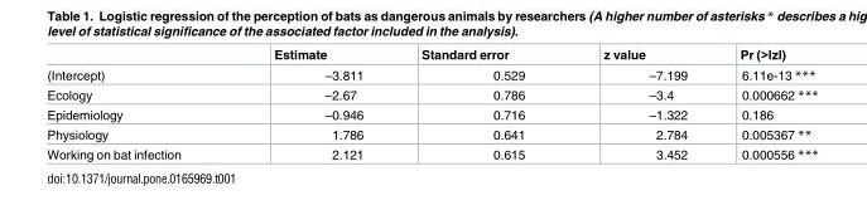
<table><thead><tr><td></td><td>Estimate</td><td>Standard error</td><td>z value</td><td>Pr (&gt;lzl)</td></tr></thead><tbody><tr><td>(Intercept)</td><td>–3.811</td><td>0.529</td><td>–7.199</td><td>6.11e-13 ***</td></tr><tr><td>Ecology</td><td>–2.67</td><td>0.786</td><td>–3.4</td><td>0.000662 ***</td></tr><tr><td>Epidemiology</td><td>–0.946</td><td>0.716</td><td>–1.322</td><td>0.186</td></tr><tr><td>Physiology</td><td>1.786</td><td>0.641</td><td>2.784</td><td>0.005367 **</td></tr><tr><td>Working on bat infection</td><td>2.121</td><td>0.615</td><td>3.452</td><td>0.000556 ***</td></tr></tbody></table>